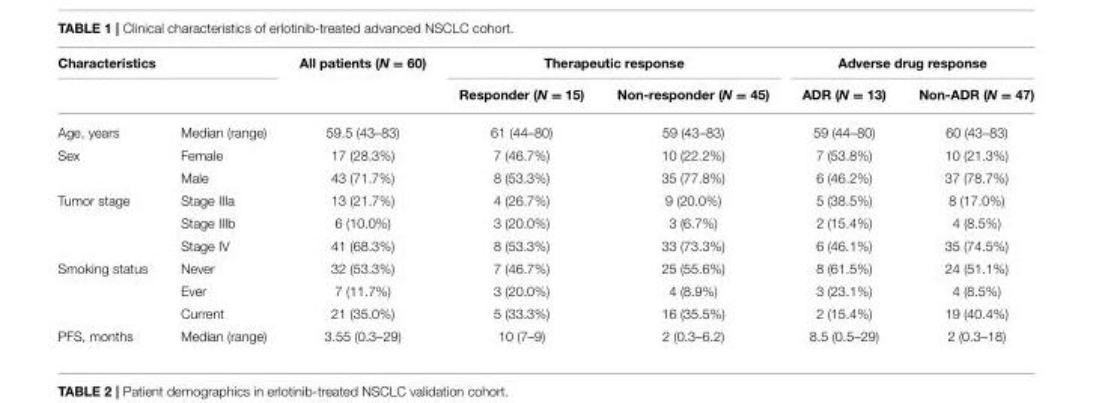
<table><thead><tr><td colspan="2">Characteristics</td><td rowspan="2">All patients (N = 60)</td><td colspan="2">Therapeutic response</td><td colspan="2">Adverse drug response</td></tr><tr><td></td><td></td><td>Responder (N = 15)</td><td>Non-responder (N = 45)</td><td>ADR (N = 13)</td><td>Non-ADR (N = 47)</td></tr></thead><tbody><tr><td>Age, years</td><td>Median (range)</td><td>59.5 (43–83)</td><td>61 (44–80)</td><td>59 (43–83)</td><td>59 (44–80)</td><td>60 (43–83)</td></tr><tr><td rowspan="2">Sex</td><td>Female</td><td>17 (28.3%)</td><td>7 (46.7%)</td><td>10 (22.2%)</td><td>7 (53.8%)</td><td>10 (21.3%)</td></tr><tr><td>Male</td><td>43 (71.7%)</td><td>8 (53.3%)</td><td>35 (77.8%)</td><td>6 (46.2%)</td><td>37 (78.7%)</td></tr><tr><td rowspan="3">Tumor stage</td><td>Stage IIIa</td><td>13 (21.7%)</td><td>4 (26.7%)</td><td>9 (20.0%)</td><td>5 (38.5%)</td><td>8 (17.0%)</td></tr><tr><td>Stage IIIb</td><td>6 (10.0%)</td><td>3 (20.0%)</td><td>3 (6.7%)</td><td>2 (15.4%)</td><td>4 (8.5%)</td></tr><tr><td>Stage IV</td><td>41 (68.3%)</td><td>8 (53.3%)</td><td>33 (73.3%)</td><td>6 (46.1%)</td><td>35 (74.5%)</td></tr><tr><td rowspan="3">Smoking status</td><td>Never</td><td>32 (53.3%)</td><td>7 (46.7%)</td><td>25 (55.6%)</td><td>8 (61.5%)</td><td>24 (51.1%)</td></tr><tr><td>Ever</td><td>7 (11.7%)</td><td>3 (20.0%)</td><td>4 (8.9%)</td><td>3 (23.1%)</td><td>4 (8.5%)</td></tr><tr><td>Current</td><td>21 (35.0%)</td><td>5 (33.3%)</td><td>16 (35.5%)</td><td>2 (15.4%)</td><td>19 (40.4%)</td></tr><tr><td>PFS, months</td><td>Median (range)</td><td>3.55 (0.3–29)</td><td>10 (7–9)</td><td>2 (0.3–6.2)</td><td>8.5 (0.5–29)</td><td>2 (0.3–18)</td></tr></tbody></table>